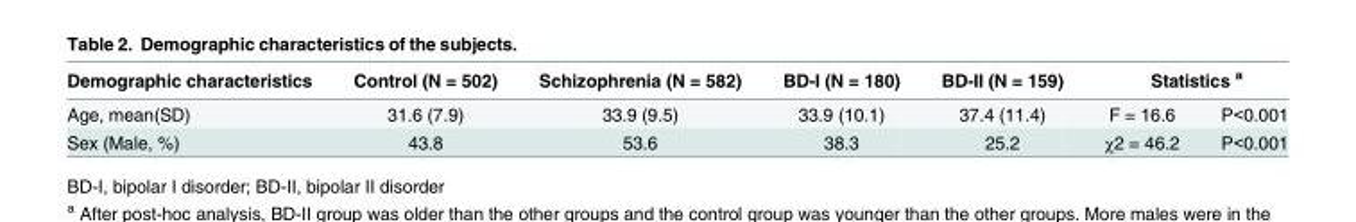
<table><thead><tr><td rowspan="2">Demographic characteristics Age, mean(SD)</td><td rowspan="2">Control (N = 502) 31.6 (7.9)</td><td rowspan="2">Schizophrenia (N = 582) 33.9 (9.5)</td><td rowspan="2">BD-I (N = 180) 33.9 (10.1)</td><td rowspan="2">BD-II (N = 159) 37.4 (11.4)</td><td colspan="2">Statistics <sup>a</sup></td></tr><tr><td>F = 16.6</td><td>P&lt;0.001</td></tr></thead><tbody><tr><td>Sex (Male, %)</td><td>43.8</td><td>53.6</td><td>38.3</td><td>25.2</td><td>χ2 = 46.2</td><td>P&lt;0.001</td></tr></tbody></table>